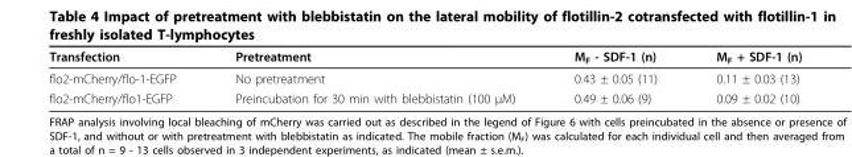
<table><thead><tr><td>Transfection</td><td>Pretreatment</td><td>M<sub>F</sub> - SDF-1 (n)</td><td>M<sub>F</sub> + SDF-1 (n)</td></tr></thead><tbody><tr><td>flo2-mCherry/flo-1-EGFP</td><td>No pretreatment</td><td>0.43 ± 0.05 (11)</td><td>0.11 ± 0.03 (13)</td></tr><tr><td>flo2-mCherry/flo1-EGFP</td><td>Preincubation for 30 min with blebbistatin (100 μM)</td><td>0.49 ± 0.06 (9)</td><td>0.09 ± 0.02 (10)</td></tr></tbody></table>